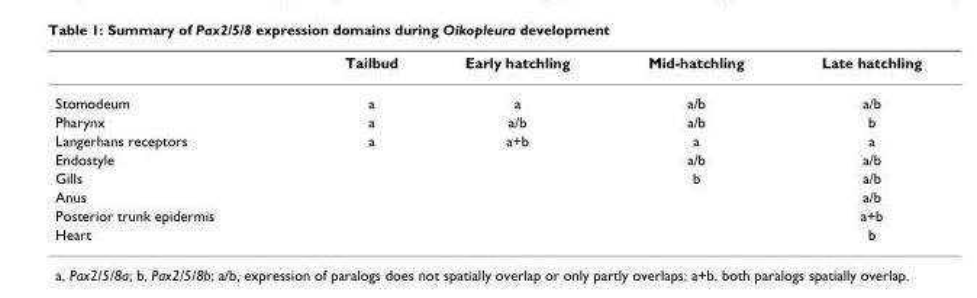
<table><thead><tr><td></td><td>Tailbud</td><td>Early hatchling</td><td>Mid-hatchling</td><td>Late hatchling</td></tr></thead><tbody><tr><td>Stomodeum</td><td>a</td><td>a</td><td>a/b</td><td>a/b</td></tr><tr><td>Pharynx</td><td>a</td><td>a/b</td><td>a/b</td><td>b</td></tr><tr><td>Langerhans receptors</td><td>a</td><td>a+b</td><td>a</td><td>a</td></tr><tr><td>Endostyle</td><td></td><td></td><td>a/b</td><td>a/b</td></tr><tr><td>Gills</td><td></td><td></td><td>b</td><td>a/b</td></tr><tr><td>Anus</td><td></td><td></td><td></td><td>a/b</td></tr><tr><td>Posterior trunk epidermis</td><td></td><td></td><td></td><td>a+b</td></tr><tr><td>Heart</td><td></td><td></td><td></td><td>b</td></tr></tbody></table>